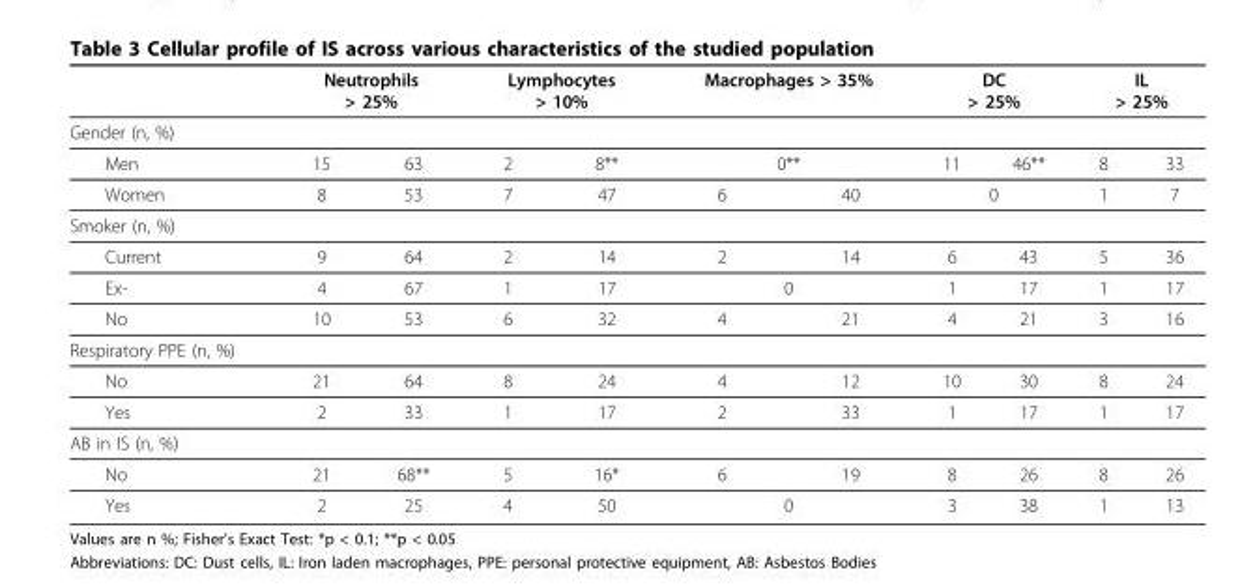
<table><thead><tr><td rowspan="2">Gender (n, %)</td><td colspan="2">Neutrophils &gt; 25%</td><td colspan="2">Lymphocytes &gt; 10%</td><td colspan="2">Macrophages &gt; 35%</td><td colspan="2">DC &gt; 25%</td><td colspan="2">IL &gt; 25%</td></tr><tr><td></td><td></td><td></td><td></td><td></td><td></td><td></td><td></td><td></td><td></td></tr></thead><tbody><tr><td>Men</td><td>15</td><td>63</td><td>2</td><td>8**</td><td colspan="2">0**</td><td>11</td><td>46**</td><td>8</td><td>33</td></tr><tr><td>Women</td><td>8</td><td>53</td><td>7</td><td>47</td><td>6</td><td>40</td><td colspan="2">0</td><td>1</td><td>7</td></tr><tr><td colspan="11">Smoker (n, %)</td></tr><tr><td>Current</td><td>9</td><td>64</td><td>2</td><td>14</td><td>2</td><td>14</td><td>6</td><td>43</td><td>5</td><td>36</td></tr><tr><td>Ex-</td><td>4</td><td>67</td><td>1</td><td>17</td><td colspan="2">0</td><td>1</td><td>17</td><td>1</td><td>17</td></tr><tr><td>No</td><td>10</td><td>53</td><td>6</td><td>32</td><td>4</td><td>21</td><td>4</td><td>21</td><td>3</td><td>16</td></tr><tr><td colspan="11">Respiratory PPE (n, %)</td></tr><tr><td>No</td><td>21</td><td>64</td><td>8</td><td>24</td><td>4</td><td>12</td><td>10</td><td>30</td><td>8</td><td>24</td></tr><tr><td>Yes</td><td>2</td><td>33</td><td>1</td><td>17</td><td>2</td><td>33</td><td>1</td><td>17</td><td>1</td><td>17</td></tr><tr><td colspan="11">AB in IS (n, %)</td></tr><tr><td>No</td><td>21</td><td>68**</td><td>5</td><td>16*</td><td>6</td><td>19</td><td>8</td><td>26</td><td>8</td><td>26</td></tr><tr><td>Yes</td><td>2</td><td>25</td><td>4</td><td>50</td><td colspan="2">0</td><td>3</td><td>38</td><td>1</td><td>13</td></tr></tbody></table>